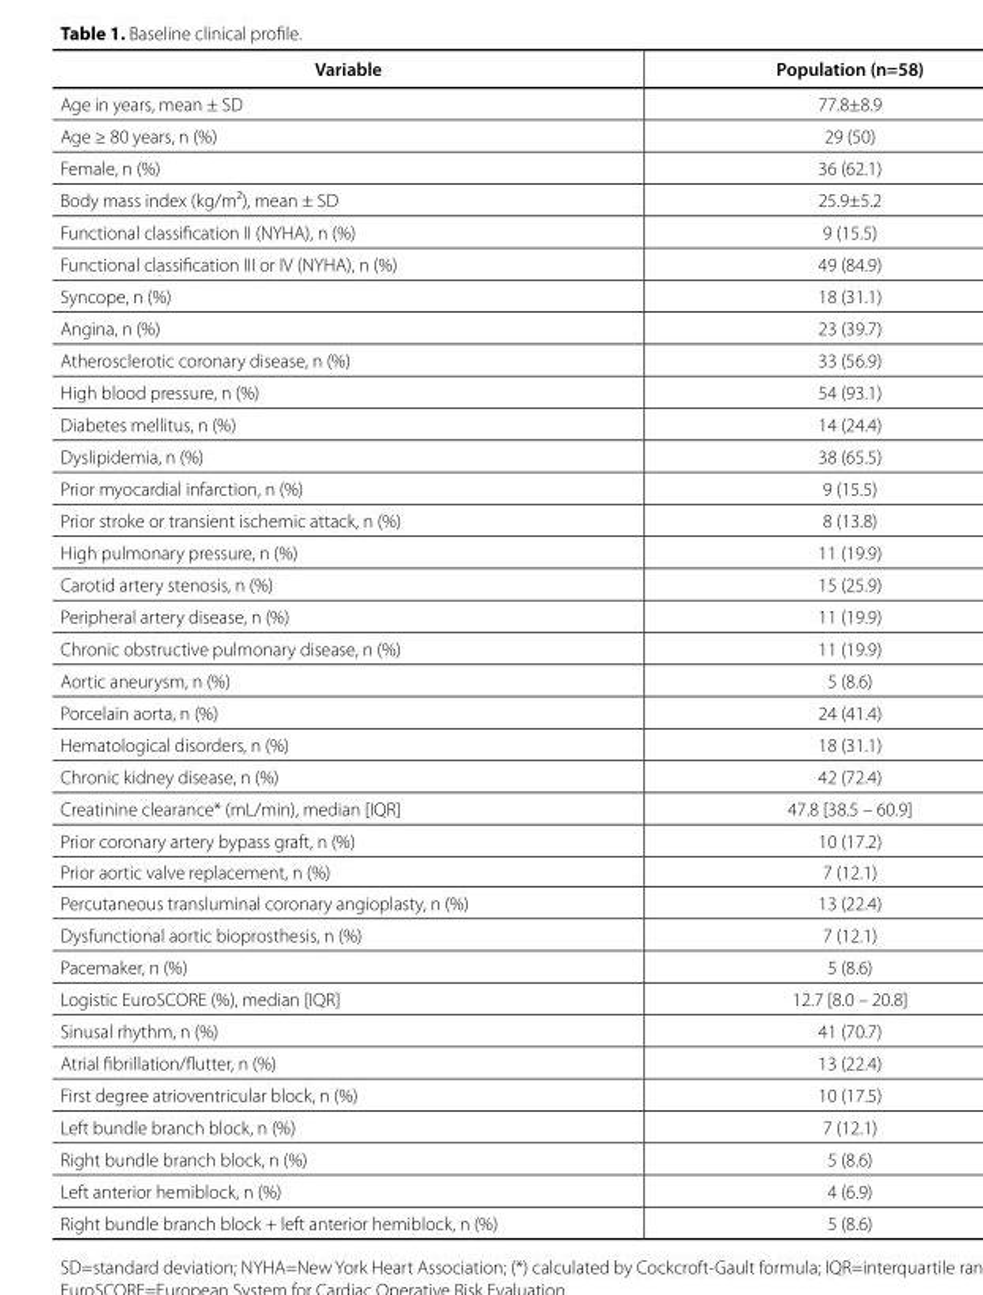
<table><thead><tr><td>Variable</td><td>Population (n=58)</td></tr></thead><tbody><tr><td>Age in years, mean ± SD</td><td>77.8±8.9</td></tr><tr><td>Age ≥ 80 years, n (%)</td><td>29 (50)</td></tr><tr><td>Female, n (%)</td><td>36 (62.1)</td></tr><tr><td>Body mass index (kg/m²), mean ± SD</td><td>25.9±5.2</td></tr><tr><td>Functional classification II (NYHA), n (%)</td><td>9 (15.5)</td></tr><tr><td>Functional classification III or IV (NYHA), n (%)</td><td>49 (84.9)</td></tr><tr><td>Syncope, n (%)</td><td>18 (31.1)</td></tr><tr><td>Angina, n (%)</td><td>23 (39.7)</td></tr><tr><td>Atherosclerotic coronary disease, n (%)</td><td>33 (56.9)</td></tr><tr><td>High blood pressure, n (%)</td><td>54 (93.1)</td></tr><tr><td>Diabetes mellitus, n (%)</td><td>14 (24.4)</td></tr><tr><td>Dyslipidemia, n (%)</td><td>38 (65.5)</td></tr><tr><td>Prior myocardial infarction, n (%)</td><td>9 (15.5)</td></tr><tr><td>Prior stroke or transient ischemic attack, n (%)</td><td>8 (13.8)</td></tr><tr><td>High pulmonary pressure, n (%)</td><td>11 (19.9)</td></tr><tr><td>Carotid artery stenosis, n (%)</td><td>15 (25.9)</td></tr><tr><td>Peripheral artery disease, n (%)</td><td>11 (19.9)</td></tr><tr><td>Chronic obstructive pulmonary disease, n (%)</td><td>11 (19.9)</td></tr><tr><td>Aortic aneurysm, n (%)</td><td>5 (8.6)</td></tr><tr><td>Porcelain aorta, n (%)</td><td>24 (41.4)</td></tr><tr><td>Hematological disorders, n (%)</td><td>18 (31.1)</td></tr><tr><td>Chronic kidney disease, n (%)</td><td>42 (72.4)</td></tr><tr><td>Creatinine clearance* (mL/min), median [IQR]</td><td>47.8 [38.5 – 60.9]</td></tr><tr><td>Prior coronary artery bypass graft, n (%)</td><td>10 (17.2)</td></tr><tr><td>Prior aortic valve replacement, n (%)</td><td>7 (12.1)</td></tr><tr><td>Percutaneous transluminal coronary angioplasty, n (%)</td><td>13 (22.4)</td></tr><tr><td>Dysfunctional aortic bioprosthesis, n (%)</td><td>7 (12.1)</td></tr><tr><td>Pacemaker, n (%)</td><td>5 (8.6)</td></tr><tr><td>Logistic EuroSCORE (%), median [IQR]</td><td>12.7 [8.0 – 20.8]</td></tr><tr><td>Sinusal rhythm, n (%)</td><td>41 (70.7)</td></tr><tr><td>Atrial fibrillation/flutter, n (%)</td><td>13 (22.4)</td></tr><tr><td>First degree atrioventricular block, n (%)</td><td>10 (17.5)</td></tr><tr><td>Left bundle branch block, n (%)</td><td>7 (12.1)</td></tr><tr><td>Right bundle branch block, n (%)</td><td>5 (8.6)</td></tr><tr><td>Left anterior hemiblock, n (%)</td><td>4 (6.9)</td></tr><tr><td>Right bundle branch block + left anterior hemiblock, n (%)</td><td>5 (8.6)</td></tr></tbody></table>